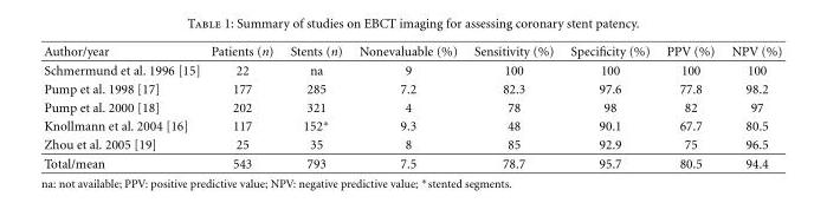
<table><thead><tr><td>Author/year</td><td>Patients (n)</td><td>Stents (n)</td><td>Nonevaluable (%)</td><td>Sensitivity (%)</td><td>Specificity (%)</td><td>PPV (%)</td><td>NPV (%)</td></tr></thead><tbody><tr><td>Schmermund et al. 1996 [15]</td><td>22</td><td>na</td><td>9</td><td>100</td><td>100</td><td>100</td><td>100</td></tr><tr><td>Pump et al. 1998 [17]</td><td>177</td><td>285</td><td>7.2</td><td>82.3</td><td>97.6</td><td>77.8</td><td>98.2</td></tr><tr><td>Pump et al. 2000 [18]</td><td>202</td><td>321</td><td>4</td><td>78</td><td>98</td><td>82</td><td>97</td></tr><tr><td>Knollmann et al. 2004 [16]</td><td>117</td><td>152∗</td><td>9.3</td><td>48</td><td>90.1</td><td>67.7</td><td>80.5</td></tr><tr><td>Zhou et al. 2005 [19]</td><td>25</td><td>35</td><td>8</td><td>85</td><td>92.9</td><td>75</td><td>96.5</td></tr><tr><td>Total/mean</td><td>543</td><td>793</td><td>7.5</td><td>78.7</td><td>95.7</td><td>80.5</td><td>94.4</td></tr></tbody></table>